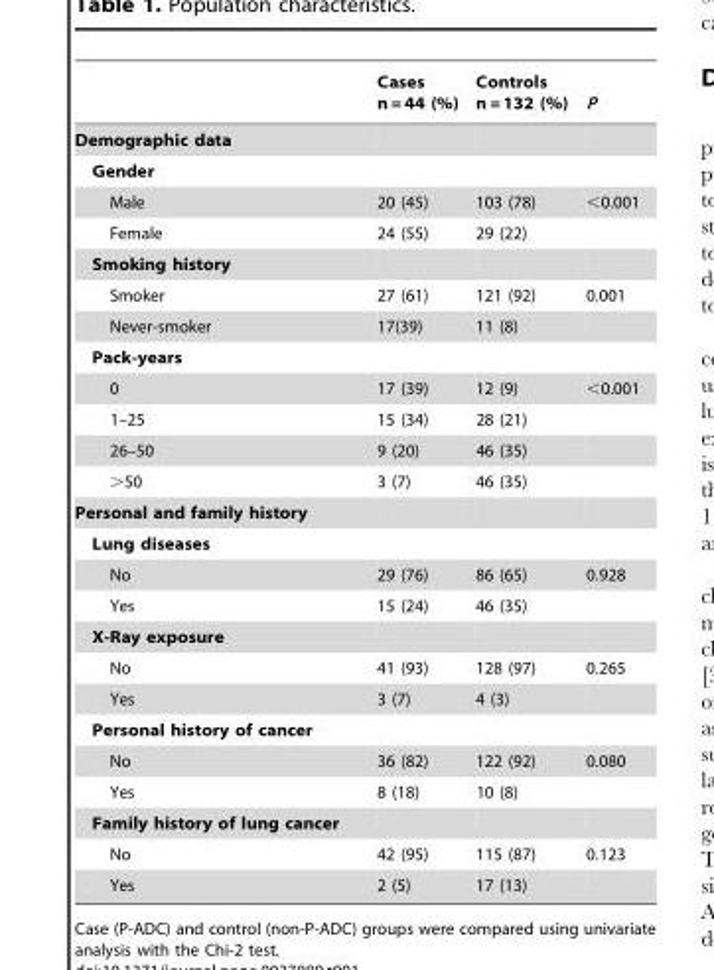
<table><thead><tr><td></td><td>Cases n = 44 (%)</td><td>Controls n = 132 (%)</td><td>P</td></tr></thead><tbody><tr><td colspan="4">Demographic data</td></tr><tr><td colspan="4">Gender</td></tr><tr><td>Male</td><td>20 (45)</td><td>103 (78)</td><td>&lt;0.001</td></tr><tr><td>Female</td><td>24 (55)</td><td>29 (22)</td><td></td></tr><tr><td colspan="4">Smoking history</td></tr><tr><td>Smoker</td><td>27 (61)</td><td>121 (92)</td><td>0.001</td></tr><tr><td>Never-smoker</td><td>17(39)</td><td>11 (8)</td><td></td></tr><tr><td colspan="4">Pack-years</td></tr><tr><td>0</td><td>17 (39)</td><td>12 (9)</td><td>&lt;0.001</td></tr><tr><td>1–25</td><td>15 (34)</td><td>28 (21)</td><td></td></tr><tr><td>26–50</td><td>9 (20)</td><td>46 (35)</td><td></td></tr><tr><td>&gt;50</td><td>3 (7)</td><td>46 (35)</td><td></td></tr><tr><td colspan="4">Personal and family history</td></tr><tr><td colspan="4">Lung diseases</td></tr><tr><td>No</td><td>29 (76)</td><td>86 (65)</td><td>0.928</td></tr><tr><td>Yes</td><td>15 (24)</td><td>46 (35)</td><td></td></tr><tr><td colspan="4">X-Ray exposure</td></tr><tr><td>No</td><td>41 (93)</td><td>128 (97)</td><td>0.265</td></tr><tr><td>Yes</td><td>3 (7)</td><td>4 (3)</td><td></td></tr><tr><td colspan="4">Personal history of cancer</td></tr><tr><td>No</td><td>36 (82)</td><td>122 (92)</td><td>0.080</td></tr><tr><td>Yes</td><td>8 (18)</td><td>10 (8)</td><td></td></tr><tr><td colspan="4">Family history of lung cancer</td></tr><tr><td>No</td><td>42 (95)</td><td>115 (87)</td><td>0.123</td></tr><tr><td>Yes</td><td>2 (5)</td><td>17 (13)</td><td></td></tr></tbody></table>